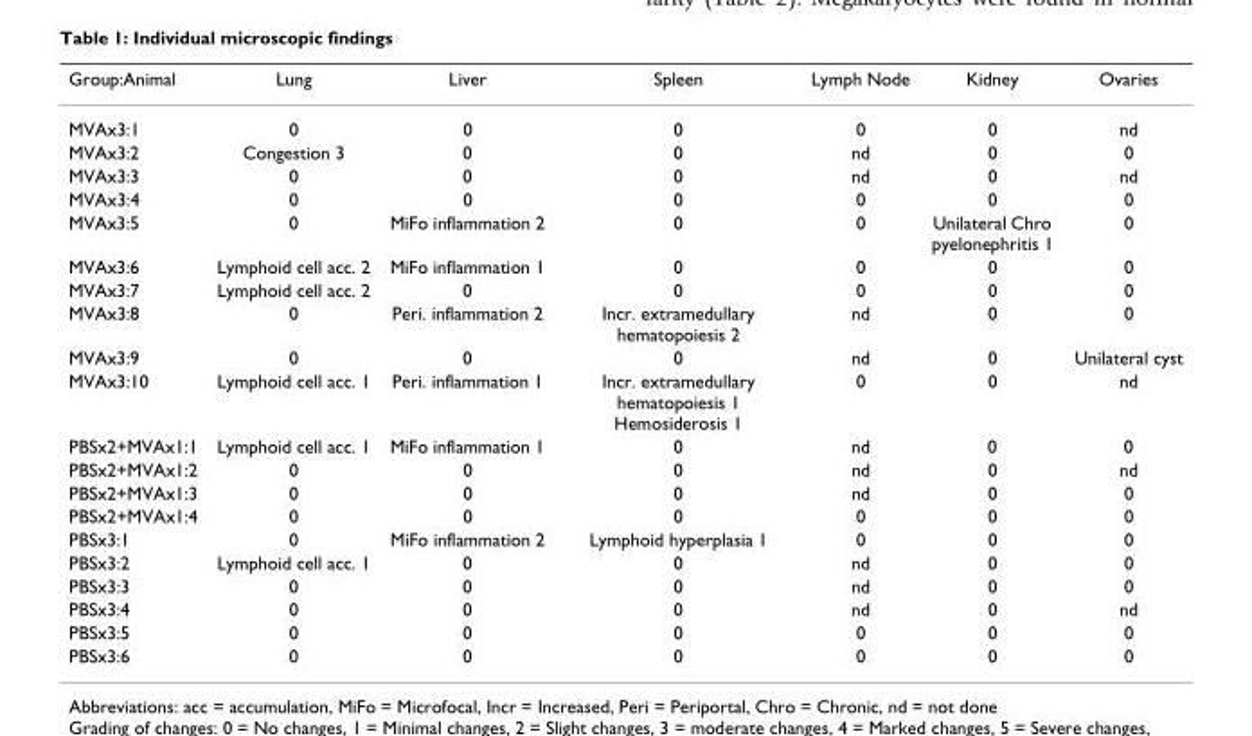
<table><thead><tr><td>Group:Animal</td><td>Lung</td><td>Liver</td><td>Spleen</td><td>Lymph Node</td><td>Kidney</td><td>Ovaries</td></tr></thead><tbody><tr><td>MVAx3:1</td><td>0</td><td>0</td><td>0</td><td>0</td><td>0</td><td>nd</td></tr><tr><td>MVAx3:2</td><td>Congestion 3</td><td>0</td><td>0</td><td>nd</td><td>0</td><td>0</td></tr><tr><td>MVAx3:3</td><td>0</td><td>0</td><td>0</td><td>nd</td><td>0</td><td>nd</td></tr><tr><td>MVAx3:4</td><td>0</td><td>0</td><td>0</td><td>0</td><td>0</td><td>0</td></tr><tr><td>MVAx3:5</td><td>0</td><td>MiFo inflammation 2</td><td>0</td><td>0</td><td>Unilateral Chro pyelonephritis 1</td><td>0</td></tr><tr><td>MVAx3:6</td><td>Lymphoid cell acc. 2</td><td>MiFo inflammation 1</td><td>0</td><td>0</td><td>0</td><td>0</td></tr><tr><td>MVAx3:7</td><td>Lymphoid cell acc. 2</td><td>0</td><td>0</td><td>0</td><td>0</td><td>0</td></tr><tr><td>MVAx3:8</td><td>0</td><td>Peri. inflammation 2</td><td>Incr. extramedullary hematopoiesis 2</td><td>nd</td><td>0</td><td>0</td></tr><tr><td>MVAx3:9</td><td>0</td><td>0</td><td>0</td><td>nd</td><td>0</td><td>Unilateral cyst</td></tr><tr><td>MVAx3:10</td><td>Lymphoid cell acc. 1</td><td>Peri. inflammation 1</td><td>Incr. extramedullary hematopoiesis 1 Hemosiderosis 1</td><td>0</td><td>0</td><td>nd</td></tr><tr><td>PBSx2+MVAx1:1</td><td>Lymphoid cell acc. 1</td><td>MiFo inflammation 1</td><td>0</td><td>nd</td><td>0</td><td>0</td></tr><tr><td>PBSx2+MVAx1:2</td><td>0</td><td>0</td><td>0</td><td>nd</td><td>0</td><td>nd</td></tr><tr><td>PBSx2+MVAx1:3</td><td>0</td><td>0</td><td>0</td><td>nd</td><td>0</td><td>0</td></tr><tr><td>PBSx2+MVAx1:4</td><td>0</td><td>0</td><td>0</td><td>0</td><td>0</td><td>0</td></tr><tr><td>PBSx3:1</td><td>0</td><td>MiFo inflammation 2</td><td>Lymphoid hyperplasia 1</td><td>0</td><td>0</td><td>0</td></tr><tr><td>PBSx3:2</td><td>Lymphoid cell acc. 1</td><td>0</td><td>0</td><td>nd</td><td>0</td><td>0</td></tr><tr><td>PBSx3:3</td><td>0</td><td>0</td><td>0</td><td>nd</td><td>0</td><td>0</td></tr><tr><td>PBSx3:4</td><td>0</td><td>0</td><td>0</td><td>nd</td><td>0</td><td>nd</td></tr><tr><td>PBSx3:5</td><td>0</td><td>0</td><td>0</td><td>0</td><td>0</td><td>0</td></tr><tr><td>PBSx3:6</td><td>0</td><td>0</td><td>0</td><td>0</td><td>0</td><td>0</td></tr></tbody></table>